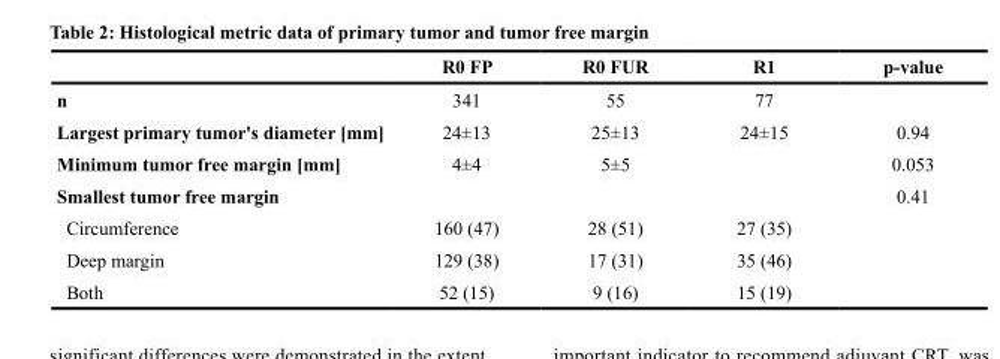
<table><thead><tr><td></td><td>R0 FP</td><td>R0 FUR</td><td>R1</td><td>p-value</td></tr></thead><tbody><tr><td>n</td><td>341</td><td>55</td><td>77</td><td></td></tr><tr><td>Largest primary tumor&#x27;s diameter [mm]</td><td>24±13</td><td>25±13</td><td>24±15</td><td>0.94</td></tr><tr><td>Minimum tumor free margin [mm]</td><td>4±4</td><td>5±5</td><td></td><td>0.053</td></tr><tr><td>Smallest tumor free margin</td><td></td><td></td><td></td><td>0.41</td></tr><tr><td>Circumference</td><td>160 (47)</td><td>28 (51)</td><td>27 (35)</td><td></td></tr><tr><td>Deep margin</td><td>129 (38)</td><td>17 (31)</td><td>35 (46)</td><td></td></tr><tr><td>Both</td><td>52 (15)</td><td>9 (16)</td><td>15 (19)</td><td></td></tr></tbody></table>